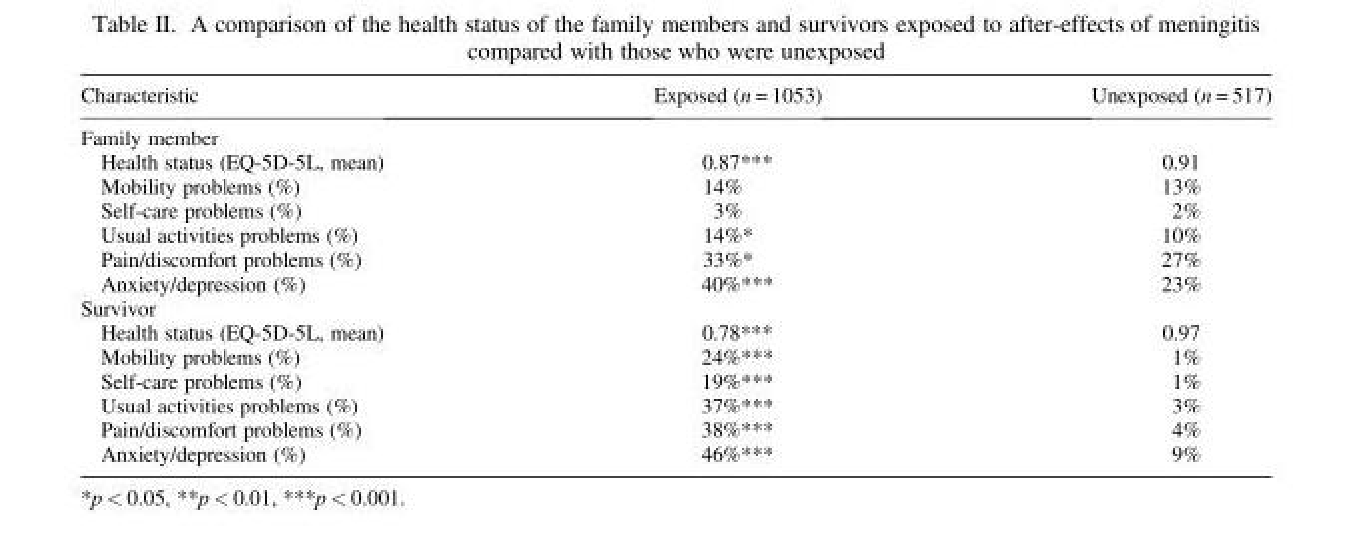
<table><thead><tr><td>Characteristic</td><td>Exposed (n = 1053)</td><td>Unexposed (n = 517)</td></tr></thead><tbody><tr><td colspan="3">Family member</td></tr><tr><td>Health status (EQ-5D-5L, mean)</td><td>0.87***</td><td>0.91</td></tr><tr><td>Mobility problems (%)</td><td>14%</td><td>13%</td></tr><tr><td>Self-care problems (%)</td><td>3%</td><td>2%</td></tr><tr><td>Usual activities problems (%)</td><td>14%*</td><td>10%</td></tr><tr><td>Pain/discomfort problems (%)</td><td>33%*</td><td>27%</td></tr><tr><td>Anxiety/depression (%)</td><td>40%***</td><td>23%</td></tr><tr><td colspan="3">Survivor</td></tr><tr><td>Health status (EQ-5D-5L, mean)</td><td>0.78***</td><td>0.97</td></tr><tr><td>Mobility problems (%)</td><td>24%***</td><td>1%</td></tr><tr><td>Self-care problems (%)</td><td>19%***</td><td>1%</td></tr><tr><td>Usual activities problems (%)</td><td>37%***</td><td>3%</td></tr><tr><td>Pain/discomfort problems (%)</td><td>38%***</td><td>4%</td></tr><tr><td>Anxiety/depression (%)</td><td>46%***</td><td>9%</td></tr></tbody></table>